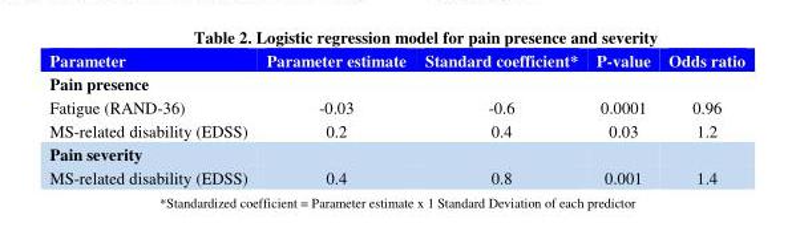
<table><thead><tr><td>Parameter</td><td>Parameter estimate</td><td>Standard coefficient*</td><td>P-value</td><td>Odds ratio</td></tr></thead><tbody><tr><td colspan="5">Pain presence</td></tr><tr><td>Fatigue (RAND-36)</td><td>-0.03</td><td>-0.6</td><td>0.0001</td><td>0.96</td></tr><tr><td>MS-related disability (EDSS)</td><td>0.2</td><td>0.4</td><td>0.03</td><td>1.2</td></tr><tr><td colspan="5">Pain severity</td></tr><tr><td>MS-related disability (EDSS)</td><td>0.4</td><td>0.8</td><td>0.001</td><td>1.4</td></tr></tbody></table>